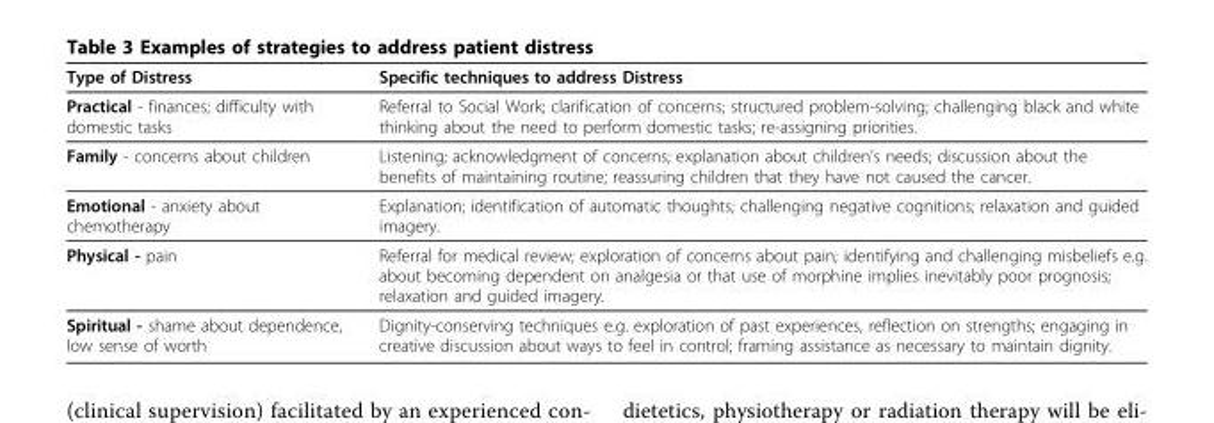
<table><thead><tr><td>Type of Distress</td><td>Specific techniques to address Distress</td></tr></thead><tbody><tr><td>Practical - finances; difficulty with domestic tasks</td><td>Referral to Social Work; clarification of concerns; structured problem-solving; challenging black and white thinking about the need to perform domestic tasks; re-assigning priorities.</td></tr><tr><td>Family - concerns about children</td><td>Listening; acknowledgment of concerns; explanation about children’s needs; discussion about the benefits of maintaining routine; reassuring children that they have not caused the cancer.</td></tr><tr><td>Emotional - anxiety about chemotherapy</td><td>Explanation; identification of automatic thoughts; challenging negative cognitions; relaxation and guided imagery.</td></tr><tr><td>Physical - pain</td><td>Referral for medical review; exploration of concerns about pain; identifying and challenging misbeliefs e.g. about becoming dependent on analgesia or that use of morphine implies inevitably poor prognosis; relaxation and guided imagery.</td></tr><tr><td>Spiritual - shame about dependence, low sense of worth</td><td>Dignity-conserving techniques e.g. exploration of past experiences, reflection on strengths; engaging in creative discussion about ways to feel in control; framing assistance as necessary to maintain dignity.</td></tr></tbody></table>